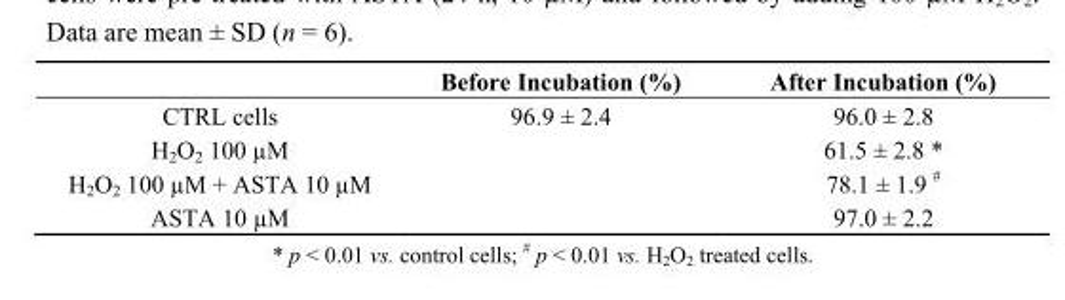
<table><thead><tr><td></td><td>Before Incubation (%)</td><td>After Incubation (%)</td></tr></thead><tbody><tr><td>CTRL cells</td><td>96.9 ± 2.4</td><td>96.0 ± 2.8</td></tr><tr><td>H<sub>2</sub>O<sub>2</sub> 100 µM</td><td></td><td>61.5 ± 2.8 *</td></tr><tr><td>H<sub>2</sub>O<sub>2</sub> 100 µM + ASTA 10 µM</td><td></td><td>78.1 ± 1.9 <sup>#</sup></td></tr><tr><td>ASTA 10 µM</td><td></td><td>97.0 ± 2.2</td></tr></tbody></table>